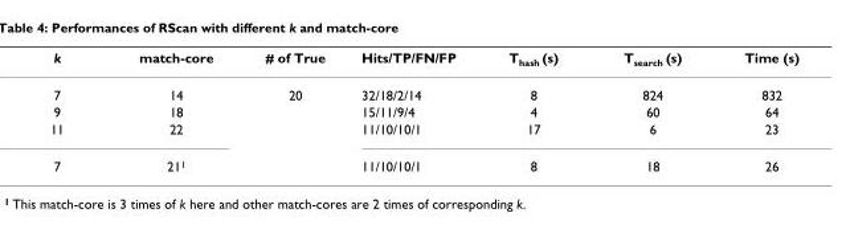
<table><thead><tr><td>k</td><td>match-core</td><td># of True</td><td>Hits/TP/FN/FP</td><td>T<sub>hash</sub> (s)</td><td>T<sub>search</sub> (s)</td><td>Time (s)</td></tr></thead><tbody><tr><td>7</td><td>14</td><td>20</td><td>32/18/2/14</td><td>8</td><td>824</td><td>832</td></tr><tr><td>9</td><td>18</td><td></td><td>15/11/9/4</td><td>4</td><td>60</td><td>64</td></tr><tr><td>11</td><td>22</td><td></td><td>11/10/10/1</td><td>17</td><td>6</td><td>23</td></tr><tr><td>7</td><td>21<sup>1</sup></td><td></td><td>11/10/10/1</td><td>8</td><td>18</td><td>26</td></tr></tbody></table>